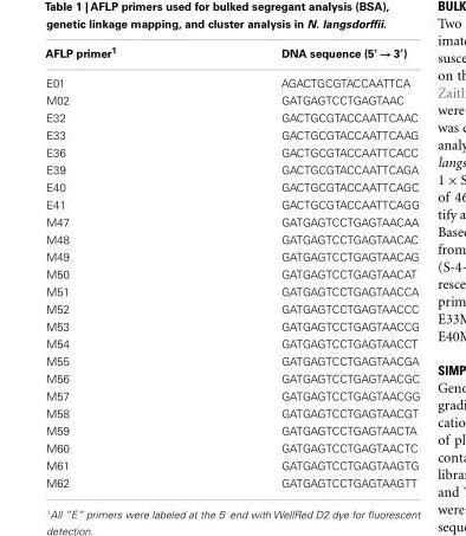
<table><thead><tr><td>AFLP primer<sup>1</sup></td><td>DNA sequence (5′ → 3′)</td></tr></thead><tbody><tr><td>E01</td><td>AGACTGCGTACCAATTCA</td></tr><tr><td>M02</td><td>GATGAGTCCTGAGTAAC</td></tr><tr><td>E32</td><td>GACTGCGTACCAATTCAAC</td></tr><tr><td>E33</td><td>GACTGCGTACCAATTCAAG</td></tr><tr><td>E36</td><td>GACTGCGTACCAATTCACC</td></tr><tr><td>E39</td><td>GACTGCGTACCAATTCAGA</td></tr><tr><td>E40</td><td>GACTGCGTACCAATTCAGC</td></tr><tr><td>E41</td><td>GACTGCGTACCAATTCAGG</td></tr><tr><td>M47</td><td>GATGAGTCCTGAGTAACAA</td></tr><tr><td>M48</td><td>GATGAGTCCTGAGTAACAC</td></tr><tr><td>M49</td><td>GATGAGTCCTGAGTAACAG</td></tr><tr><td>M50</td><td>GATGAGTCCTGAGTAACAT</td></tr><tr><td>M51</td><td>GATGAGTCCTGAGTAACCA</td></tr><tr><td>M52</td><td>GATGAGTCCTGAGTAACCC</td></tr><tr><td>M53</td><td>GATGAGTCCTGAGTAACCG</td></tr><tr><td>M54</td><td>GATGAGTCCTGAGTAACCT</td></tr><tr><td>M55</td><td>GATGAGTCCTGAGTAACGA</td></tr><tr><td>M56</td><td>GATGAGTCCTGAGTAACGC</td></tr><tr><td>M57</td><td>GATGAGTCCTGAGTAACGG</td></tr><tr><td>M58</td><td>GATGAGTCCTGAGTAACGT</td></tr><tr><td>M59</td><td>GATGAGTCCTGAGTAACTA</td></tr><tr><td>M60</td><td>GATGAGTCCTGAGTAACTC</td></tr><tr><td>M61</td><td>GATGAGTCCTGAGTAAGTG</td></tr><tr><td>M62</td><td>GATGAGTCCTGAGTAAGTT</td></tr></tbody></table>